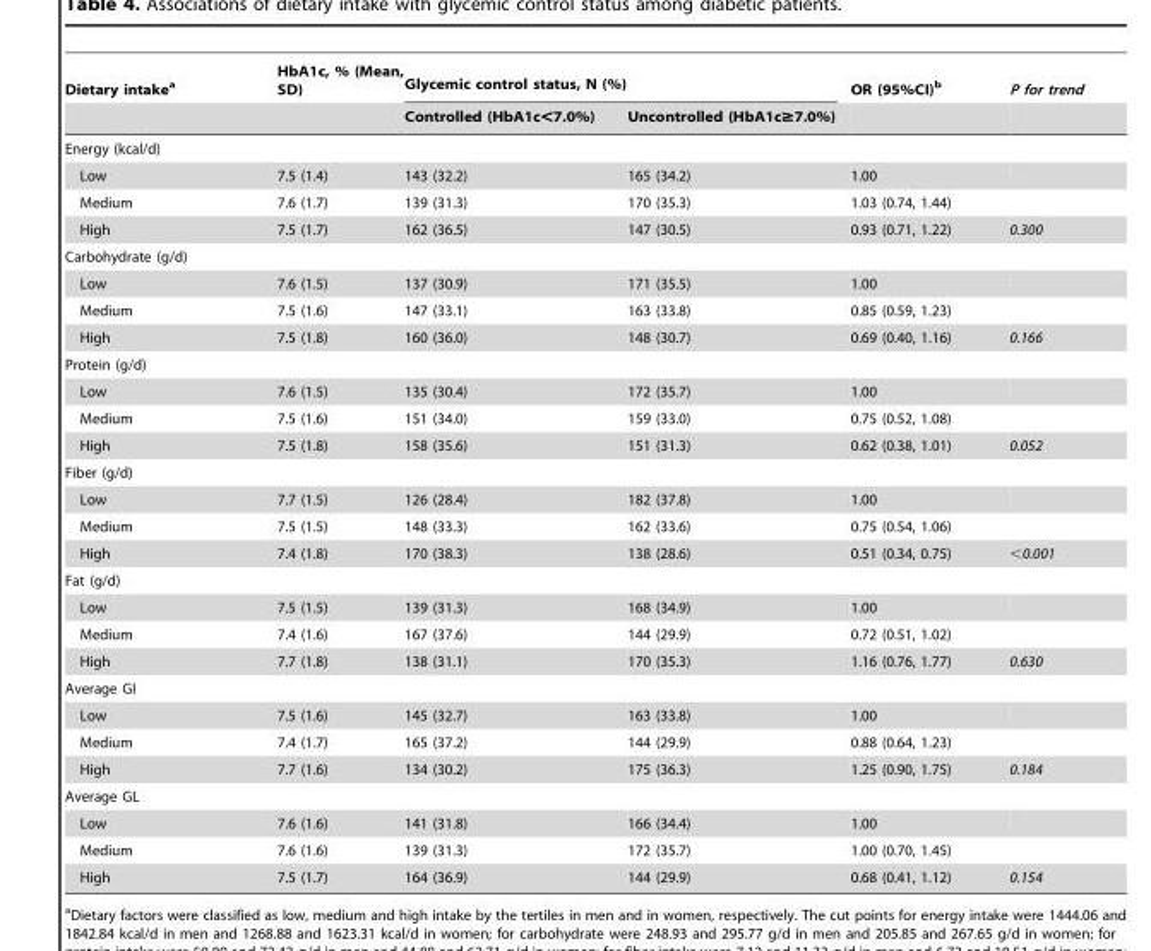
<table><thead><tr><td rowspan="2">Dietary intake<sup>a</sup></td><td rowspan="2">HbA1c, % (Mean, SD)</td><td colspan="2">Glycemic control status, N (%)</td><td rowspan="2">OR (95%CI)<sup>b</sup></td><td rowspan="2">P for trend</td></tr><tr><td>Controlled (HbA1c&lt;7.0%)</td><td>Uncontrolled (HbA1c≥7.0%)</td></tr></thead><tbody><tr><td colspan="6">Energy (kcal/d)</td></tr><tr><td>Low</td><td>7.5 (1.4)</td><td>143 (32.2)</td><td>165 (34.2)</td><td>1.00</td><td></td></tr><tr><td>Medium</td><td>7.6 (1.7)</td><td>139 (31.3)</td><td>170 (35.3)</td><td>1.03 (0.74, 1.44)</td><td></td></tr><tr><td>High</td><td>7.5 (1.7)</td><td>162 (36.5)</td><td>147 (30.5)</td><td>0.93 (0.71, 1.22)</td><td>0.300</td></tr><tr><td colspan="6">Carbohydrate (g/d)</td></tr><tr><td>Low</td><td>7.6 (1.5)</td><td>137 (30.9)</td><td>171 (35.5)</td><td>1.00</td><td></td></tr><tr><td>Medium</td><td>7.5 (1.6)</td><td>147 (33.1)</td><td>163 (33.8)</td><td>0.85 (0.59, 1.23)</td><td></td></tr><tr><td>High</td><td>7.5 (1.8)</td><td>160 (36.0)</td><td>148 (30.7)</td><td>0.69 (0.40, 1.16)</td><td>0.166</td></tr><tr><td colspan="6">Protein (g/d)</td></tr><tr><td>Low</td><td>7.6 (1.5)</td><td>135 (30.4)</td><td>172 (35.7)</td><td>1.00</td><td></td></tr><tr><td>Medium</td><td>7.5 (1.6)</td><td>151 (34.0)</td><td>159 (33.0)</td><td>0.75 (0.52, 1.08)</td><td></td></tr><tr><td>High</td><td>7.5 (1.8)</td><td>158 (35.6)</td><td>151 (31.3)</td><td>0.62 (0.38, 1.01)</td><td>0.052</td></tr><tr><td colspan="6">Fiber (g/d)</td></tr><tr><td>Low</td><td>7.7 (1.5)</td><td>126 (28.4)</td><td>182 (37.8)</td><td>1.00</td><td></td></tr><tr><td>Medium</td><td>7.5 (1.5)</td><td>148 (33.3)</td><td>162 (33.6)</td><td>0.75 (0.54, 1.06)</td><td></td></tr><tr><td>High</td><td>7.4 (1.8)</td><td>170 (38.3)</td><td>138 (28.6)</td><td>0.51 (0.34, 0.75)</td><td>&lt;0.001</td></tr><tr><td colspan="6">Fat (g/d)</td></tr><tr><td>Low</td><td>7.5 (1.5)</td><td>139 (31.3)</td><td>168 (34.9)</td><td>1.00</td><td></td></tr><tr><td>Medium</td><td>7.4 (1.6)</td><td>167 (37.6)</td><td>144 (29.9)</td><td>0.72 (0.51, 1.02)</td><td></td></tr><tr><td>High</td><td>7.7 (1.8)</td><td>138 (31.1)</td><td>170 (35.3)</td><td>1.16 (0.76, 1.77)</td><td>0.630</td></tr><tr><td colspan="6">Average GI</td></tr><tr><td>Low</td><td>7.5 (1.6)</td><td>145 (32.7)</td><td>163 (33.8)</td><td>1.00</td><td></td></tr><tr><td>Medium</td><td>7.4 (1.7)</td><td>165 (37.2)</td><td>144 (29.9)</td><td>0.88 (0.64, 1.23)</td><td></td></tr><tr><td>High</td><td>7.7 (1.6)</td><td>134 (30.2)</td><td>175 (36.3)</td><td>1.25 (0.90, 1.75)</td><td>0.184</td></tr><tr><td colspan="6">Average GL</td></tr><tr><td>Low</td><td>7.6 (1.6)</td><td>141 (31.8)</td><td>166 (34.4)</td><td>1.00</td><td></td></tr><tr><td>Medium</td><td>7.6 (1.6)</td><td>139 (31.3)</td><td>172 (35.7)</td><td>1.00 (0.70, 1.45)</td><td></td></tr><tr><td>High</td><td>7.5 (1.7)</td><td>164 (36.9)</td><td>144 (29.9)</td><td>0.68 (0.41, 1.12)</td><td>0.154</td></tr></tbody></table>